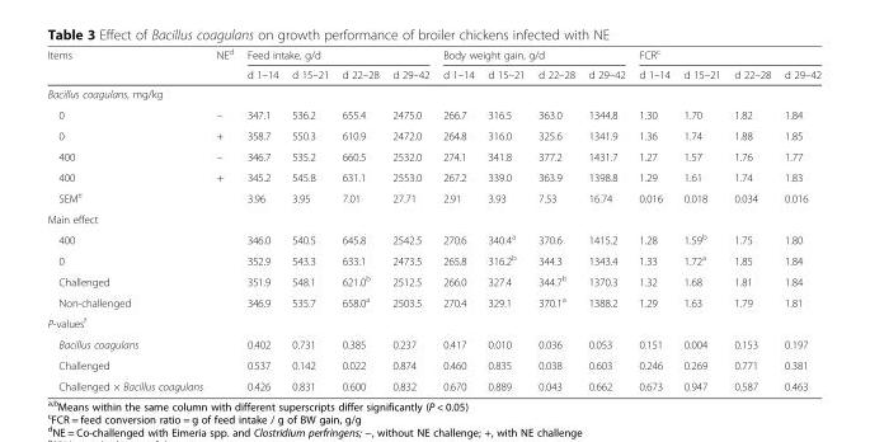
<table><thead><tr><td rowspan="2">Items</td><td rowspan="2">NE<sup>d</sup></td><td colspan="4">Feed intake, g/d</td><td colspan="4">Body weight gain, g/d</td><td colspan="4">FCR<sup>c</sup></td></tr><tr><td>d 1–14</td><td>d 15–21</td><td>d 22–28</td><td>d 29–42</td><td>d 1–14</td><td>d 15–21</td><td>d 22–28</td><td>d 29–42</td><td>d 1–14</td><td>d 15–21</td><td>d 22–28</td><td>d 29–42</td></tr></thead><tbody><tr><td colspan="14">Bacillus coagulans, mg/kg</td></tr><tr><td>0</td><td>–</td><td>347.1</td><td>536.2</td><td>655.4</td><td>2475.0</td><td>266.7</td><td>316.5</td><td>363.0</td><td>1344.8</td><td>1.30</td><td>1.70</td><td>1.82</td><td>1.84</td></tr><tr><td>0</td><td>+</td><td>358.7</td><td>550.3</td><td>610.9</td><td>2472.0</td><td>264.8</td><td>316.0</td><td>325.6</td><td>1341.9</td><td>1.36</td><td>1.74</td><td>1.88</td><td>1.85</td></tr><tr><td>400</td><td>–</td><td>346.7</td><td>535.2</td><td>660.5</td><td>2532.0</td><td>274.1</td><td>341.8</td><td>377.2</td><td>1431.7</td><td>1.27</td><td>1.57</td><td>1.76</td><td>1.77</td></tr><tr><td>400</td><td>+</td><td>345.2</td><td>545.8</td><td>631.1</td><td>2553.0</td><td>267.2</td><td>339.0</td><td>363.9</td><td>1398.8</td><td>1.29</td><td>1.61</td><td>1.74</td><td>1.83</td></tr><tr><td>SEM<sup>e</sup></td><td></td><td>3.96</td><td>3.95</td><td>7.01</td><td>27.71</td><td>2.91</td><td>3.93</td><td>7.53</td><td>16.74</td><td>0.016</td><td>0.018</td><td>0.034</td><td>0.016</td></tr><tr><td colspan="14">Main effect</td></tr><tr><td>400</td><td></td><td>346.0</td><td>540.5</td><td>645.8</td><td>2542.5</td><td>270.6</td><td>340.4<sup>a</sup></td><td>370.6</td><td>1415.2</td><td>1.28</td><td>1.59<sup>b</sup></td><td>1.75</td><td>1.80</td></tr><tr><td>0</td><td></td><td>352.9</td><td>543.3</td><td>633.1</td><td>2473.5</td><td>265.8</td><td>316.2<sup>b</sup></td><td>344.3</td><td>1343.4</td><td>1.33</td><td>1.72<sup>a</sup></td><td>1.85</td><td>1.84</td></tr><tr><td>Challenged</td><td></td><td>351.9</td><td>548.1</td><td>621.0<sup>b</sup></td><td>2512.5</td><td>266.0</td><td>327.4</td><td>344.7<sup>b</sup></td><td>1370.3</td><td>1.32</td><td>1.68</td><td>1.81</td><td>1.84</td></tr><tr><td>Non-challenged</td><td></td><td>346.9</td><td>535.7</td><td>658.0<sup>a</sup></td><td>2503.5</td><td>270.4</td><td>329.1</td><td>370.1<sup>a</sup></td><td>1388.2</td><td>1.29</td><td>1.63</td><td>1.79</td><td>1.81</td></tr><tr><td colspan="14">P-values<sup>f</sup></td></tr><tr><td>Bacillus coagulans</td><td></td><td>0.402</td><td>0.731</td><td>0.385</td><td>0.237</td><td>0.417</td><td>0.010</td><td>0.036</td><td>0.053</td><td>0.151</td><td>0.004</td><td>0.153</td><td>0.197</td></tr><tr><td>Challenged</td><td></td><td>0.537</td><td>0.142</td><td>0.022</td><td>0.874</td><td>0.460</td><td>0.835</td><td>0.038</td><td>0.603</td><td>0.246</td><td>0.269</td><td>0.771</td><td>0.381</td></tr><tr><td>Challenged × Bacillus coagulans</td><td></td><td>0.426</td><td>0.831</td><td>0.600</td><td>0.832</td><td>0.670</td><td>0.889</td><td>0.043</td><td>0.662</td><td>0.673</td><td>0.947</td><td>0.587</td><td>0.463</td></tr></tbody></table>